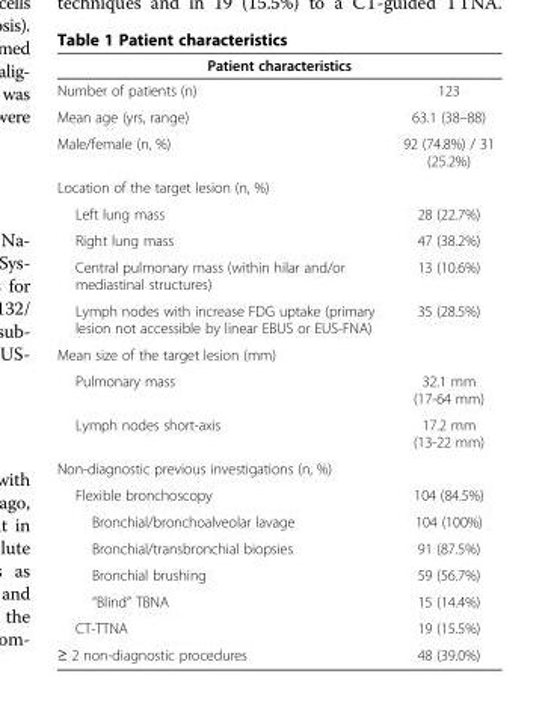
<table><thead><tr><td colspan="2">Patient characteristics</td></tr><tr><td>Number of patients (n)</td><td>123</td></tr></thead><tbody><tr><td>Mean age (yrs, range)</td><td>63.1 (38–88)</td></tr><tr><td>Male/female (n, %)</td><td>92 (74.8%) / 31 (25.2%)</td></tr><tr><td colspan="2">Location of the target lesion (n, %)</td></tr><tr><td>Left lung mass</td><td>28 (22.7%)</td></tr><tr><td>Right lung mass</td><td>47 (38.2%)</td></tr><tr><td>Central pulmonary mass (within hilar and/or mediastinal structures)</td><td>13 (10.6%)</td></tr><tr><td>Lymph nodes with increase FDG uptake (primary lesion not accessible by linear EBUS or EUS-FNA)</td><td>35 (28.5%)</td></tr><tr><td colspan="2">Mean size of the target lesion (mm)</td></tr><tr><td>Pulmonary mass</td><td>32.1 mm (17-64 mm)</td></tr><tr><td>Lymph nodes short-axis</td><td>17.2 mm (13-22 mm)</td></tr><tr><td colspan="2">Non-diagnostic previous investigations (n, %)</td></tr><tr><td>Flexible bronchoscopy</td><td>104 (84.5%)</td></tr><tr><td>Bronchial/bronchoalveolar lavage</td><td>104 (100%)</td></tr><tr><td>Bronchial/transbronchial biopsies</td><td>91 (87.5%)</td></tr><tr><td>Bronchial brushing</td><td>59 (56.7%)</td></tr><tr><td>“Blind” TBNA</td><td>15 (14.4%)</td></tr><tr><td>CT-TTNA</td><td>19 (15.5%)</td></tr><tr><td>≥ 2 non-diagnostic procedures</td><td>48 (39.0%)</td></tr></tbody></table>